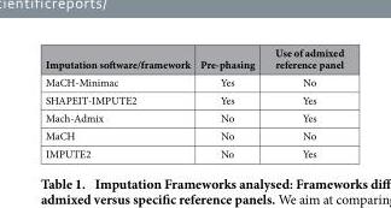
<table><thead><tr><td>Imputation software/framework</td><td>Pre-phasing</td><td>Use of admixed reference panel</td></tr></thead><tbody><tr><td>MaCH-Minimac</td><td>Yes</td><td>No</td></tr><tr><td>SHAPEIT-IMPUTE2</td><td>Yes</td><td>Yes</td></tr><tr><td>Mach-Admix</td><td>No</td><td>Yes</td></tr><tr><td>MaCH</td><td>No</td><td>No</td></tr><tr><td>IMPUTE2</td><td>No</td><td>Yes</td></tr></tbody></table>